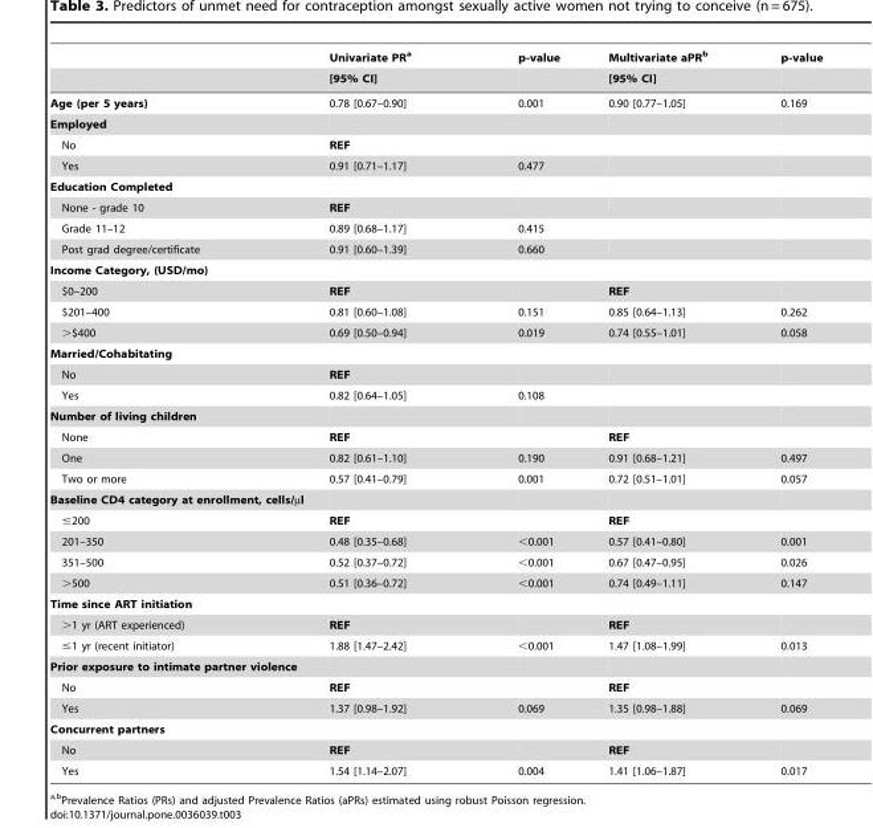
<table><thead><tr><td rowspan="2"></td><td rowspan="2">Univariate PR<sup>a</sup> [95% CI]</td><td rowspan="2">p-value</td><td rowspan="2">Multivariate aPR<sup>b</sup> [95% CI]</td><td rowspan="2">p-value</td></tr><tr></tr></thead><tbody><tr><td>Age (per 5 years)</td><td>0.78 [0.67–0.90]</td><td>0.001</td><td>0.90 [0.77–1.05]</td><td>0.169</td></tr><tr><td colspan="5">Employed</td></tr><tr><td>No</td><td>REF</td><td></td><td></td><td></td></tr><tr><td>Yes</td><td>0.91 [0.71–1.17]</td><td>0.477</td><td></td><td></td></tr><tr><td colspan="5">Education Completed</td></tr><tr><td>None - grade 10</td><td>REF</td><td></td><td></td><td></td></tr><tr><td>Grade 11–12</td><td>0.89 [0.68–1.17]</td><td>0.415</td><td></td><td></td></tr><tr><td>Post grad degree/certificate</td><td>0.91 [0.60–1.39]</td><td>0.660</td><td></td><td></td></tr><tr><td colspan="5">Income Category, (USD/mo)</td></tr><tr><td>$0–200</td><td>REF</td><td></td><td>REF</td><td></td></tr><tr><td>$201–400</td><td>0.81 [0.60–1.08]</td><td>0.151</td><td>0.85 [0.64–1.13]</td><td>0.262</td></tr><tr><td>&gt;$400</td><td>0.69 [0.50–0.94]</td><td>0.019</td><td>0.74 [0.55–1.01]</td><td>0.058</td></tr><tr><td colspan="5">Married/Cohabitating</td></tr><tr><td>No</td><td>REF</td><td></td><td></td><td></td></tr><tr><td>Yes</td><td>0.82 [0.64–1.05]</td><td>0.108</td><td></td><td></td></tr><tr><td colspan="5">Number of living children</td></tr><tr><td>None</td><td>REF</td><td></td><td>REF</td><td></td></tr><tr><td>One</td><td>0.82 [0.61–1.10]</td><td>0.190</td><td>0.91 [0.68–1.21]</td><td>0.497</td></tr><tr><td>Two or more</td><td>0.57 [0.41–0.79]</td><td>0.001</td><td>0.72 [0.51–1.01]</td><td>0.057</td></tr><tr><td colspan="5">Baseline CD4 category at enrollment, cells/µl</td></tr><tr><td>≤200</td><td>REF</td><td></td><td>REF</td><td></td></tr><tr><td>201–350</td><td>0.48 [0.35–0.68]</td><td>&lt;0.001</td><td>0.57 [0.41–0.80]</td><td>0.001</td></tr><tr><td>351–500</td><td>0.52 [0.37–0.72]</td><td>&lt;0.001</td><td>0.67 [0.47–0.95]</td><td>0.026</td></tr><tr><td>&gt;500</td><td>0.51 [0.36–0.72]</td><td>&lt;0.001</td><td>0.74 [0.49–1.11]</td><td>0.147</td></tr><tr><td colspan="5">Time since ART initiation</td></tr><tr><td>&gt;1 yr (ART experienced)</td><td>REF</td><td></td><td>REF</td><td></td></tr><tr><td>≤1 yr (recent initiator)</td><td>1.88 [1.47–2.42]</td><td>&lt;0.001</td><td>1.47 [1.08–1.99]</td><td>0.013</td></tr><tr><td colspan="5">Prior exposure to intimate partner violence</td></tr><tr><td>No</td><td>REF</td><td></td><td>REF</td><td></td></tr><tr><td>Yes</td><td>1.37 [0.98–1.92]</td><td>0.069</td><td>1.35 [0.98–1.88]</td><td>0.069</td></tr><tr><td colspan="5">Concurrent partners</td></tr><tr><td>No</td><td>REF</td><td></td><td>REF</td><td></td></tr><tr><td>Yes</td><td>1.54 [1.14–2.07]</td><td>0.004</td><td>1.41 [1.06–1.87]</td><td>0.017</td></tr></tbody></table>